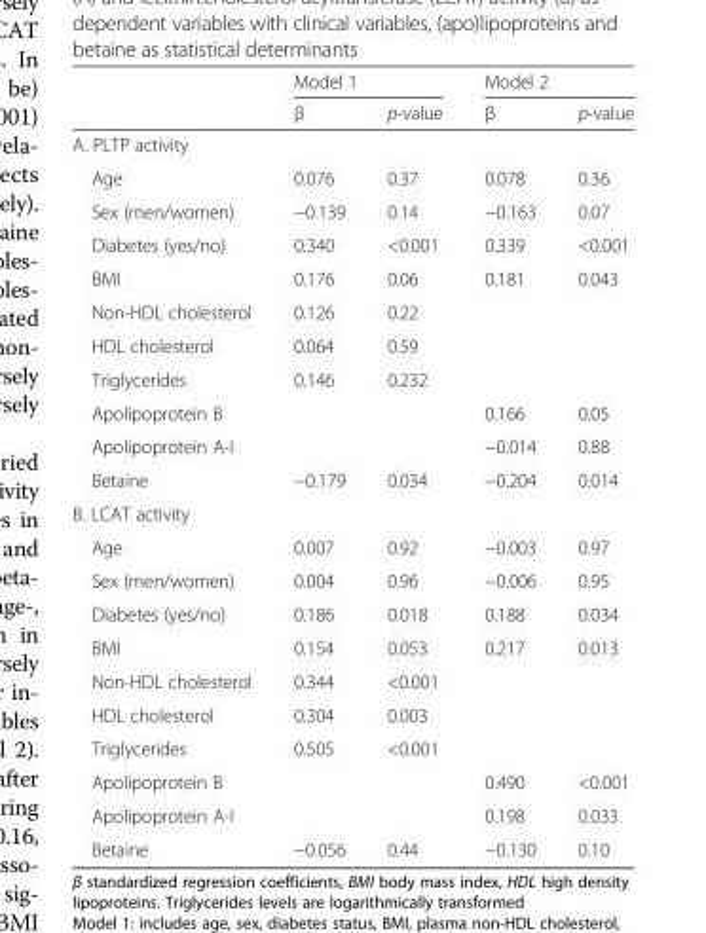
<table><thead><tr><td rowspan="2"></td><td colspan="2">Model 1</td><td colspan="2">Model 2</td></tr><tr><td>β</td><td>p-value</td><td>β</td><td>p-value</td></tr></thead><tbody><tr><td colspan="5">A. PLTP activity</td></tr><tr><td>Age</td><td>0.076</td><td>0.37</td><td>0.078</td><td>0.36</td></tr><tr><td>Sex (men/women)</td><td>−0.139</td><td>0.14</td><td>−0.163</td><td>0.07</td></tr><tr><td>Diabetes (yes/no)</td><td>0.340</td><td>&lt;0.001</td><td>0.339</td><td>&lt;0.001</td></tr><tr><td>BMI</td><td>0.176</td><td>0.06</td><td>0.181</td><td>0.043</td></tr><tr><td>Non-HDL cholesterol</td><td>0.126</td><td>0.22</td><td></td><td></td></tr><tr><td>HDL cholesterol</td><td>0.064</td><td>0.59</td><td></td><td></td></tr><tr><td>Triglycerides</td><td>0.146</td><td>0.232</td><td></td><td></td></tr><tr><td>Apolipoprotein B</td><td></td><td></td><td>0.166</td><td>0.05</td></tr><tr><td>Apolipoprotein A-I</td><td></td><td></td><td>−0.014</td><td>0.88</td></tr><tr><td>Betaine</td><td>−0.179</td><td>0.034</td><td>−0.204</td><td>0.014</td></tr><tr><td colspan="5">B. LCAT activity</td></tr><tr><td>Age</td><td>0.007</td><td>0.92</td><td>−0.003</td><td>0.97</td></tr><tr><td>Sex (men/women)</td><td>0.004</td><td>0.96</td><td>−0.006</td><td>0.95</td></tr><tr><td>Diabetes (yes/no)</td><td>0.186</td><td>0.018</td><td>0.188</td><td>0.034</td></tr><tr><td>BMI</td><td>0.154</td><td>0.053</td><td>0.217</td><td>0.013</td></tr><tr><td>Non-HDL cholesterol</td><td>0.344</td><td>&lt;0.001</td><td></td><td></td></tr><tr><td>HDL cholesterol</td><td>0.304</td><td>0.003</td><td></td><td></td></tr><tr><td>Triglycerides</td><td>0.505</td><td>&lt;0.001</td><td></td><td></td></tr><tr><td>Apolipoprotein B</td><td></td><td></td><td>0.490</td><td>&lt;0.001</td></tr><tr><td>Apolipoprotein A-I</td><td></td><td></td><td>0.198</td><td>0.033</td></tr><tr><td>Betaine</td><td>−0.056</td><td>0.44</td><td>−0.130</td><td>0.10</td></tr></tbody></table>